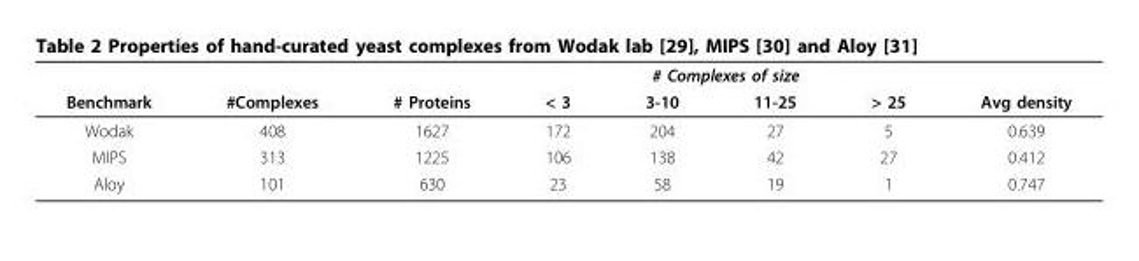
<table><thead><tr><td rowspan="2">Benchmark</td><td rowspan="2">#Complexes</td><td rowspan="2"># Proteins</td><td colspan="4"># Complexes of size</td><td rowspan="2">Avg density</td></tr><tr><td>&lt; 3</td><td>3-10</td><td>11-25</td><td>&gt; 25</td></tr></thead><tbody><tr><td>Wodak</td><td>408</td><td>1627</td><td>172</td><td>204</td><td>27</td><td>5</td><td>0.639</td></tr><tr><td>MIPS</td><td>313</td><td>1225</td><td>106</td><td>138</td><td>42</td><td>27</td><td>0.412</td></tr><tr><td>Aloy</td><td>101</td><td>630</td><td>23</td><td>58</td><td>19</td><td>1</td><td>0.747</td></tr></tbody></table>